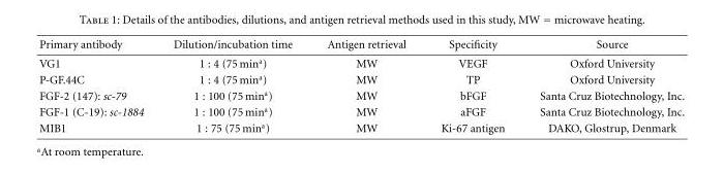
<table><tbody><tr><td>Primary antibody</td><td>Dilution/incubation time</td><td>Antigen retrieval</td><td>Specificity</td><td>Source</td></tr><tr><td>VG1</td><td>1 : 4 (75 min<sup>a</sup>)</td><td>MW</td><td>VEGF</td><td>Oxford University</td></tr><tr><td>P-GF.44C</td><td>1 : 4 (75 min<sup>a</sup>)</td><td>MW</td><td>TP</td><td>Oxford University</td></tr><tr><td>FGF-2 (147): sc-79</td><td>1 : 100 (75 min<sup>a</sup>)</td><td>MW</td><td>bFGF</td><td>Santa Cruz Biotechnology, Inc.</td></tr><tr><td>FGF-1 (C-19): sc-1884</td><td>1 : 100 (75 min<sup>a</sup>)</td><td>MW</td><td>aFGF</td><td>Santa Cruz Biotechnology, Inc.</td></tr><tr><td>MIB1</td><td>1 : 75 (75 min<sup>a</sup>)</td><td>MW</td><td>Ki-67 antigen</td><td>DAKO, Glostrup, Denmark</td></tr></tbody></table>